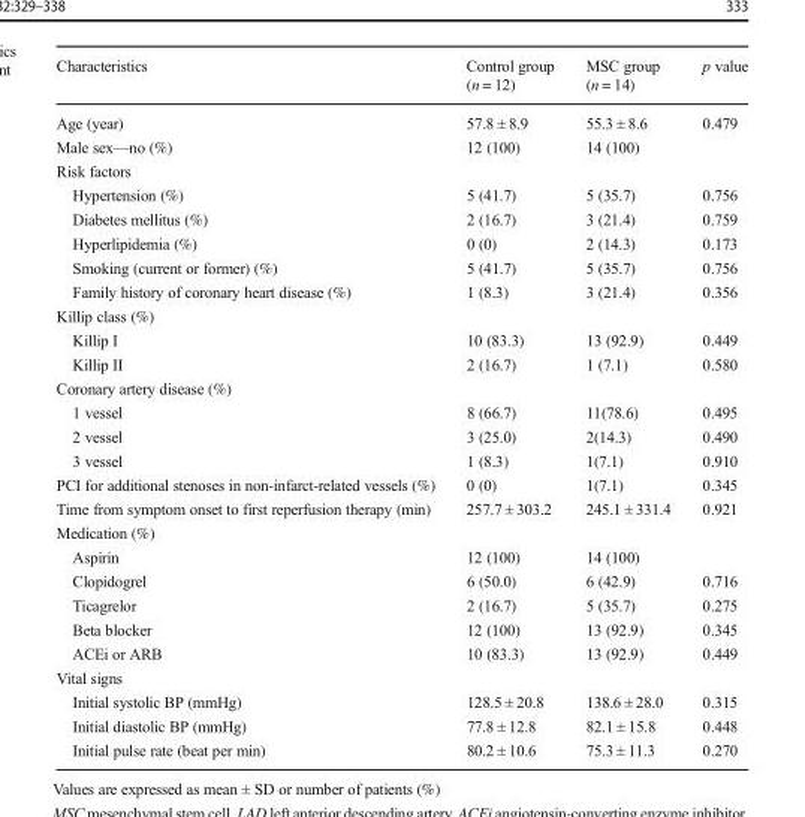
<table><thead><tr><td>Characteristics</td><td>Control group (n = 12)</td><td>MSC group (n = 14)</td><td>p value</td></tr></thead><tbody><tr><td>Age (year)</td><td>57.8 ± 8.9</td><td>55.3 ± 8.6</td><td>0.479</td></tr><tr><td>Male sex—no (%)</td><td>12 (100)</td><td>14 (100)</td><td></td></tr><tr><td colspan="4">Risk factors</td></tr><tr><td>Hypertension (%) Diabetes mellitus (%) Hyperlipidemia (%) Smoking (current or former) (%) Family history of coronary heart disease (%)</td><td>5 (41.7) 2 (16.7) 0 (0) 5 (41.7) 1 (8.3)</td><td>5 (35.7) 3 (21.4) 2 (14.3) 5 (35.7) 3 (21.4)</td><td>0.756 0.759 0.173 0.756 0.356</td></tr><tr><td colspan="4">Killip class (%)</td></tr><tr><td>Killip I Killip II</td><td>10 (83.3) 2 (16.7)</td><td>13 (92.9) 1 (7.1)</td><td>0.449 0.580</td></tr><tr><td colspan="4">Coronary artery disease (%)</td></tr><tr><td>1 vessel 2 vessel 3 vessel</td><td>8 (66.7) 3 (25.0) 1 (8.3)</td><td>11(78.6) 2(14.3) 1(7.1)</td><td>0.495 0.490 0.910</td></tr><tr><td>PCI for additional stenoses in non-infarct-related vessels (%)</td><td>0 (0)</td><td>1(7.1)</td><td>0.345</td></tr><tr><td>Time from symptom onset to first reperfusion therapy (min)</td><td>257.7 ± 303.2</td><td>245.1 ± 331.4</td><td>0.921</td></tr><tr><td colspan="4">Medication (%)</td></tr><tr><td>Aspirin</td><td>12 (100)</td><td>14 (100)</td><td></td></tr><tr><td>Clopidogrel Ticagrelor Beta blocker ACEi or ARB</td><td>6 (50.0) 2 (16.7) 12 (100) 10 (83.3)</td><td>6 (42.9) 5 (35.7) 13 (92.9) 13 (92.9)</td><td>0.716 0.275 0.345 0.449</td></tr><tr><td colspan="4">Vital signs</td></tr><tr><td>Initial systolic BP (mmHg) Initial diastolic BP (mmHg) Initial pulse rate (beat per min)</td><td>128.5 ± 20.8 77.8 ± 12.8 80.2 ± 10.6</td><td>138.6 ± 28.0 82.1 ± 15.8 75.3 ± 11.3</td><td>0.315 0.448 0.270</td></tr></tbody></table>